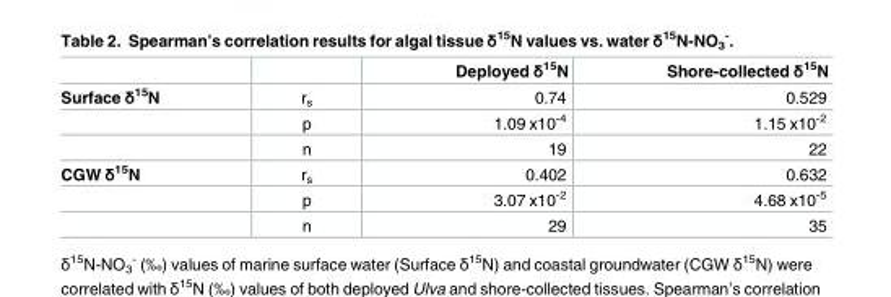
<table><thead><tr><td></td><td></td><td>Deployed δ<sup>15</sup>N</td><td>Shore-collected δ<sup>15</sup>N</td></tr></thead><tbody><tr><td rowspan="3">Surface δ<sup>15</sup>N</td><td>r<sub>s</sub></td><td>0.74</td><td>0.529</td></tr><tr><td>p</td><td>1.09 x10<sup>-4</sup></td><td>1.15 x10<sup>-2</sup></td></tr><tr><td>n</td><td>19</td><td>22</td></tr><tr><td rowspan="3">CGW δ<sup>15</sup>N</td><td>r<sub>s</sub></td><td>0.402</td><td>0.632</td></tr><tr><td>p</td><td>3.07 x10<sup>-2</sup></td><td>4.68 x10<sup>-5</sup></td></tr><tr><td>n</td><td>29</td><td>35</td></tr></tbody></table>